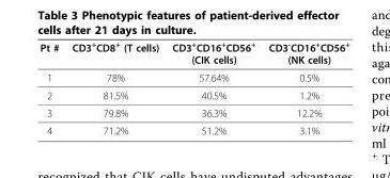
<table><thead><tr><td>Pt #</td><td>CD3<sup>+</sup>CD8<sup>+</sup> (T cells)</td><td>CD3<sup>+</sup>CD16<sup>+</sup>CD56<sup>+</sup> (CIK cells)</td><td>CD3<sup>-</sup>CD16<sup>+</sup>CD56<sup>+</sup> (NK cells)</td></tr></thead><tbody><tr><td>1</td><td>78%</td><td>57.64%</td><td>0.5%</td></tr><tr><td>2</td><td>81.5%</td><td>40.5%</td><td>1.2%</td></tr><tr><td>3</td><td>79.8%</td><td>36.3%</td><td>12.2%</td></tr><tr><td>4</td><td>71.2%</td><td>51.2%</td><td>3.1%</td></tr></tbody></table>